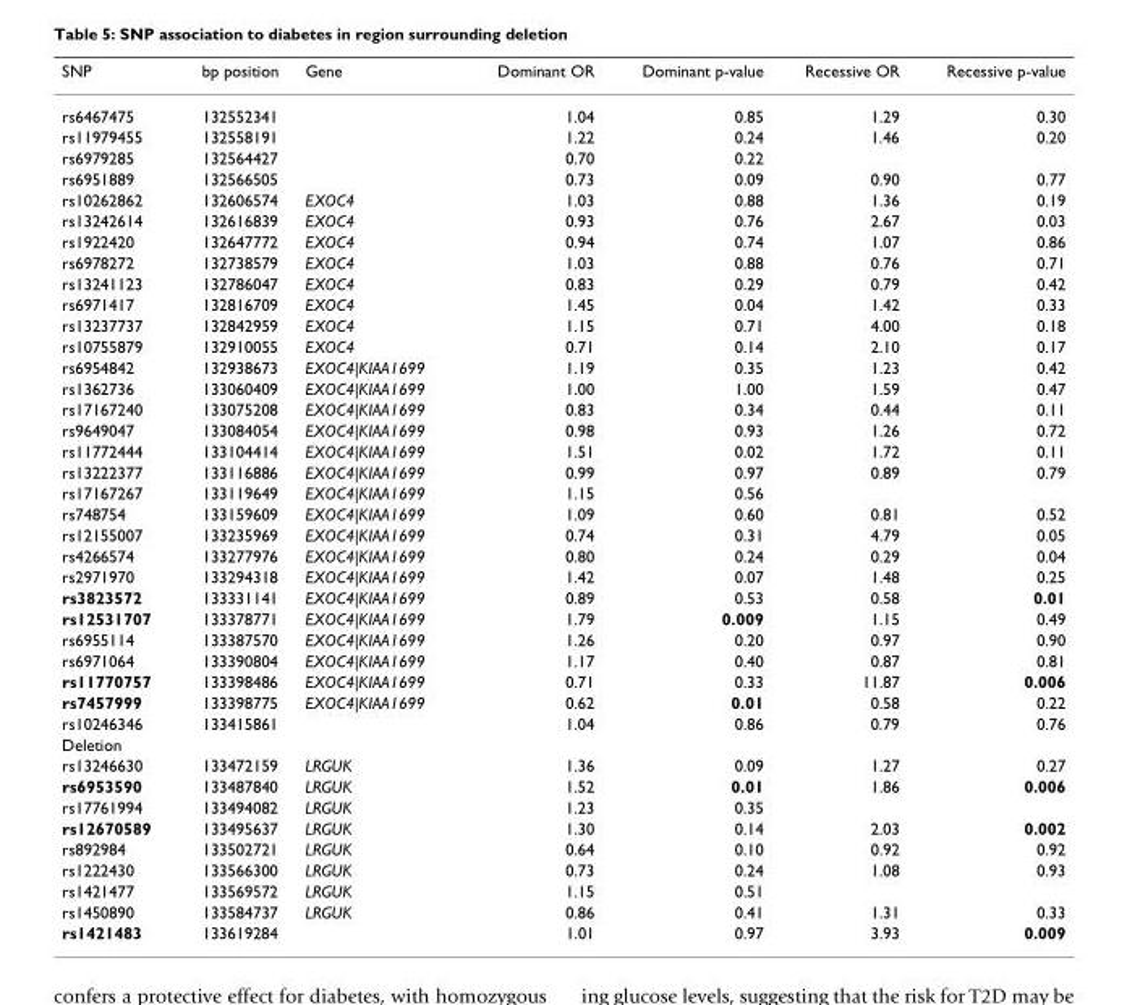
<table><thead><tr><td>SNP</td><td>bp position</td><td>Gene</td><td>Dominant OR</td><td>Dominant p-value</td><td>Recessive OR</td><td>Recessive p-value</td></tr></thead><tbody><tr><td>rs6467475</td><td>132552341</td><td></td><td>1.04</td><td>0.85</td><td>1.29</td><td>0.30</td></tr><tr><td>rs11979455</td><td>132558191</td><td></td><td>1.22</td><td>0.24</td><td>1.46</td><td>0.20</td></tr><tr><td>rs6979285</td><td>132564427</td><td></td><td>0.70</td><td>0.22</td><td></td><td></td></tr><tr><td>rs6951889</td><td>132566505</td><td></td><td>0.73</td><td>0.09</td><td>0.90</td><td>0.77</td></tr><tr><td>rs10262862</td><td>132606574</td><td>EXOC4</td><td>1.03</td><td>0.88</td><td>1.36</td><td>0.19</td></tr><tr><td>rs13242614</td><td>132616839</td><td>EXOC4</td><td>0.93</td><td>0.76</td><td>2.67</td><td>0.03</td></tr><tr><td>rs1922420</td><td>132647772</td><td>EXOC4</td><td>0.94</td><td>0.74</td><td>1.07</td><td>0.86</td></tr><tr><td>rs6978272</td><td>132738579</td><td>EXOC4</td><td>1.03</td><td>0.88</td><td>0.76</td><td>0.71</td></tr><tr><td>rs13241123</td><td>132786047</td><td>EXOC4</td><td>0.83</td><td>0.29</td><td>0.79</td><td>0.42</td></tr><tr><td>rs6971417</td><td>132816709</td><td>EXOC4</td><td>1.45</td><td>0.04</td><td>1.42</td><td>0.33</td></tr><tr><td>rs13237737</td><td>132842959</td><td>EXOC4</td><td>1.15</td><td>0.71</td><td>4.00</td><td>0.18</td></tr><tr><td>rs10755879</td><td>132910055</td><td>EXOC4</td><td>0.71</td><td>0.14</td><td>2.10</td><td>0.17</td></tr><tr><td>rs6954842</td><td>132938673</td><td>EXOC4|KIAA1699</td><td>1.19</td><td>0.35</td><td>1.23</td><td>0.42</td></tr><tr><td>rs1362736</td><td>133060409</td><td>EXOC4|KIAA1699</td><td>1.00</td><td>1.00</td><td>1.59</td><td>0.47</td></tr><tr><td>rs17167240</td><td>133075208</td><td>EXOC4|KIAA1699</td><td>0.83</td><td>0.34</td><td>0.44</td><td>0.11</td></tr><tr><td>rs9649047</td><td>133084054</td><td>EXOC4|KIAA1699</td><td>0.98</td><td>0.93</td><td>1.26</td><td>0.72</td></tr><tr><td>rs11772444</td><td>133104414</td><td>EXOC4|KIAA1699</td><td>1.51</td><td>0.02</td><td>1.72</td><td>0.11</td></tr><tr><td>rs13222377</td><td>133116886</td><td>EXOC4|KIAA1699</td><td>0.99</td><td>0.97</td><td>0.89</td><td>0.79</td></tr><tr><td>rs17167267</td><td>133119649</td><td>EXOC4|KIAA1699</td><td>1.15</td><td>0.56</td><td></td><td></td></tr><tr><td>rs748754</td><td>133159609</td><td>EXOC4|KIAA1699</td><td>1.09</td><td>0.60</td><td>0.81</td><td>0.52</td></tr><tr><td>rs12155007</td><td>133235969</td><td>EXOC4|KIAA1699</td><td>0.74</td><td>0.31</td><td>4.79</td><td>0.05</td></tr><tr><td>rs4266574</td><td>133277976</td><td>EXOC4|KIAA1699</td><td>0.80</td><td>0.24</td><td>0.29</td><td>0.04</td></tr><tr><td>rs2971970</td><td>133294318</td><td>EXOC4|KIAA1699</td><td>1.42</td><td>0.07</td><td>1.48</td><td>0.25</td></tr><tr><td>rs3823572</td><td>133331141</td><td>EXOC4|KIAA1699</td><td>0.89</td><td>0.53</td><td>0.58</td><td>0.01</td></tr><tr><td>rs12531707</td><td>133378771</td><td>EXOC4|KIAA1699</td><td>1.79</td><td>0.009</td><td>1.15</td><td>0.49</td></tr><tr><td>rs6955114</td><td>133387570</td><td>EXOC4|KIAA1699</td><td>1.26</td><td>0.20</td><td>0.97</td><td>0.90</td></tr><tr><td>rs6971064</td><td>133390804</td><td>EXOC4|KIAA1699</td><td>1.17</td><td>0.40</td><td>0.87</td><td>0.81</td></tr><tr><td>rs11770757</td><td>133398486</td><td>EXOC4|KIAA1699</td><td>0.71</td><td>0.33</td><td>11.87</td><td>0.006</td></tr><tr><td>rs7457999</td><td>133398775</td><td>EXOC4|KIAA1699</td><td>0.62</td><td>0.01</td><td>0.58</td><td>0.22</td></tr><tr><td>rs10246346</td><td>133415861</td><td></td><td>1.04</td><td>0.86</td><td>0.79</td><td>0.76</td></tr><tr><td colspan="7">Deletion</td></tr><tr><td>rs13246630</td><td>133472159</td><td>LRGUK</td><td>1.36</td><td>0.09</td><td>1.27</td><td>0.27</td></tr><tr><td>rs6953590</td><td>133487840</td><td>LRGUK</td><td>1.52</td><td>0.01</td><td>1.86</td><td>0.006</td></tr><tr><td>rs17761994</td><td>133494082</td><td>LRGUK</td><td>1.23</td><td>0.35</td><td></td><td></td></tr><tr><td>rs12670589</td><td>133495637</td><td>LRGUK</td><td>1.30</td><td>0.14</td><td>2.03</td><td>0.002</td></tr><tr><td>rs892984</td><td>133502721</td><td>LRGUK</td><td>0.64</td><td>0.10</td><td>0.92</td><td>0.92</td></tr><tr><td>rs1222430</td><td>133566300</td><td>LRGUK</td><td>0.73</td><td>0.24</td><td>1.08</td><td>0.93</td></tr><tr><td>rs1421477</td><td>133569572</td><td>LRGUK</td><td>1.15</td><td>0.51</td><td></td><td></td></tr><tr><td>rs1450890</td><td>133584737</td><td>LRGUK</td><td>0.86</td><td>0.41</td><td>1.31</td><td>0.33</td></tr><tr><td>rs1421483</td><td>133619284</td><td></td><td>1.01</td><td>0.97</td><td>3.93</td><td>0.009</td></tr></tbody></table>